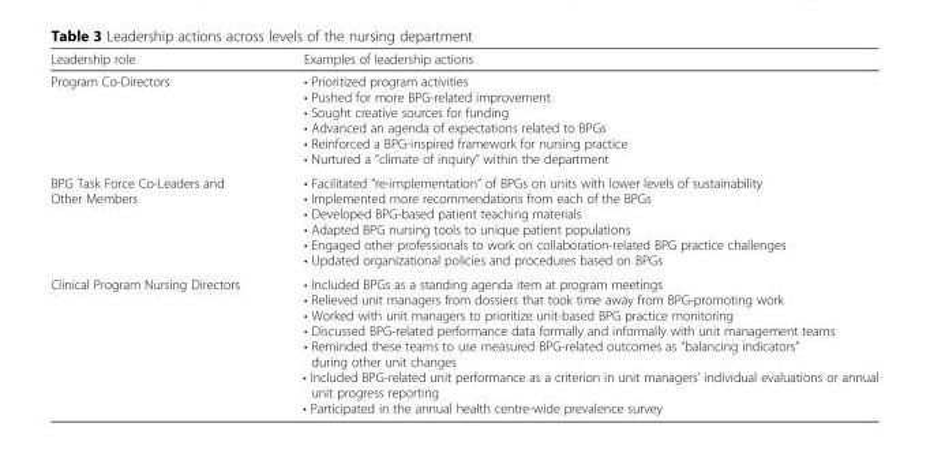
<table><thead><tr><td>Leadership role</td><td>Examples of leadership actions</td></tr></thead><tbody><tr><td>Program Co-Directors</td><td>• Prioritized program activities • Pushed for more BPG-related improvement • Sought creative sources for funding • Advanced an agenda of expectations related to BPGs • Reinforced a BPG-inspired framework for nursing practice • Nurtured a “climate of inquiry” within the department</td></tr><tr><td>BPG Task Force Co-Leaders and Other Members</td><td>• Facilitated “re-implementation” of BPGs on units with lower levels of sustainability • Implemented more recommendations from each of the BPGs • Developed BPG-based patient teaching materials • Adapted BPG nursing tools to unique patient populations • Engaged other professionals to work on collaboration-related BPG practice challenges • Updated organizational policies and procedures based on BPGs</td></tr><tr><td>Clinical Program Nursing Directors</td><td>• Included BPGs as a standing agenda item at program meetings • Relieved unit managers from dossiers that took time away from BPG-promoting work • Worked with unit managers to prioritize unit-based BPG practice monitoring • Discussed BPG-related performance data formally and informally with unit management teams • Reminded these teams to use measured BPG-related outcomes as “balancing indicators” during other unit changes • Included BPG-related unit performance as a criterion in unit managers’ individual evaluations or annual unit progress reporting • Participated in the annual health centre-wide prevalence survey</td></tr></tbody></table>